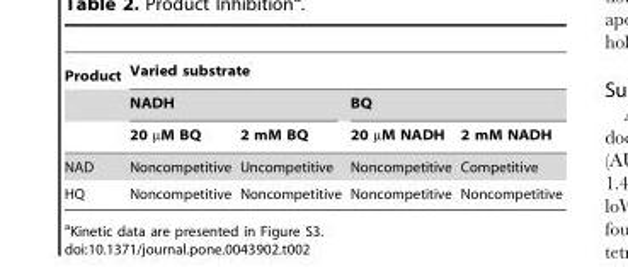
<table><thead><tr><td rowspan="3">Product</td><td colspan="4">Varied substrate</td></tr><tr><td colspan="2">NADH</td><td colspan="2">BQ</td></tr><tr><td>20 µM BQ</td><td>2 mM BQ</td><td>20 µM NADH</td><td>2 mM NADH</td></tr></thead><tbody><tr><td>NAD</td><td>Noncompetitive</td><td>Uncompetitive</td><td>Noncompetitive</td><td>Competitive</td></tr><tr><td>HQ</td><td>Noncompetitive</td><td>Noncompetitive</td><td>Noncompetitive</td><td>Noncompetitive</td></tr></tbody></table>